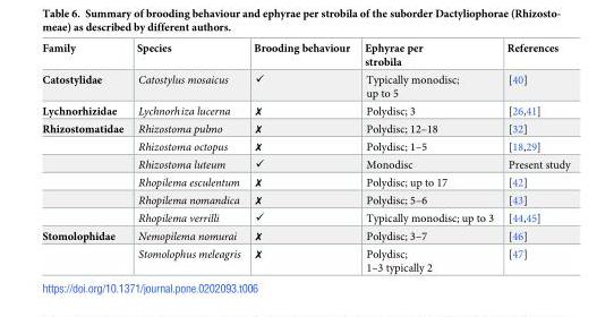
<table><thead><tr><td>Family</td><td>Species</td><td>Brooding behaviour</td><td>Ephyrae per strobila</td><td>References</td></tr></thead><tbody><tr><td>Catostylidae</td><td>Catostylus mosaicus</td><td>✓</td><td>Typically monodisc; up to 5</td><td>[40]</td></tr><tr><td>Lychnorhizidae</td><td>Lychnorhiza lucerna</td><td>✗</td><td>Polydisc; 3</td><td>[26,41]</td></tr><tr><td rowspan="6">Rhizostomatidae</td><td>Rhizostoma pulmo</td><td>✗</td><td>Polydisc; 12–18</td><td>[32]</td></tr><tr><td>Rhizostoma octopus</td><td>✗</td><td>Polydisc; 1–5</td><td>[18,29]</td></tr><tr><td>Rhizostoma luteum</td><td>✓</td><td>Monodisc</td><td>Present study</td></tr><tr><td>Rhopilema esculentum</td><td>✗</td><td>Polydisc; up to 17</td><td>[42]</td></tr><tr><td>Rhopilema nomandica</td><td>✗</td><td>Polydisc; 5–6</td><td>[43]</td></tr><tr><td>Rhopilema verrilli</td><td>✓</td><td>Typically monodisc; up to 3</td><td>[44,45]</td></tr><tr><td rowspan="2">Stomolophidae</td><td>Nemopilema nomurai</td><td>✗</td><td>Polydisc; 3–7</td><td>[46]</td></tr><tr><td>Stomolophus meleagris</td><td>✗</td><td>Polydisc; 1–3 typically 2</td><td>[47]</td></tr></tbody></table>